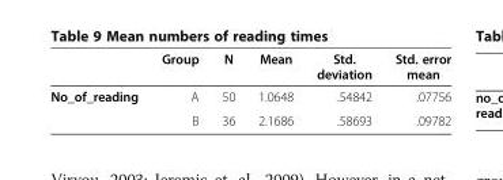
<table><thead><tr><td></td><td>Group</td><td>N</td><td>Mean</td><td>Std. deviation</td><td>Std. error mean</td></tr></thead><tbody><tr><td rowspan="2">No_of_reading</td><td>A</td><td>50</td><td>1.0648</td><td>.54842</td><td>.07756</td></tr><tr><td>B</td><td>36</td><td>2.1686</td><td>.58693</td><td>.09782</td></tr></tbody></table>